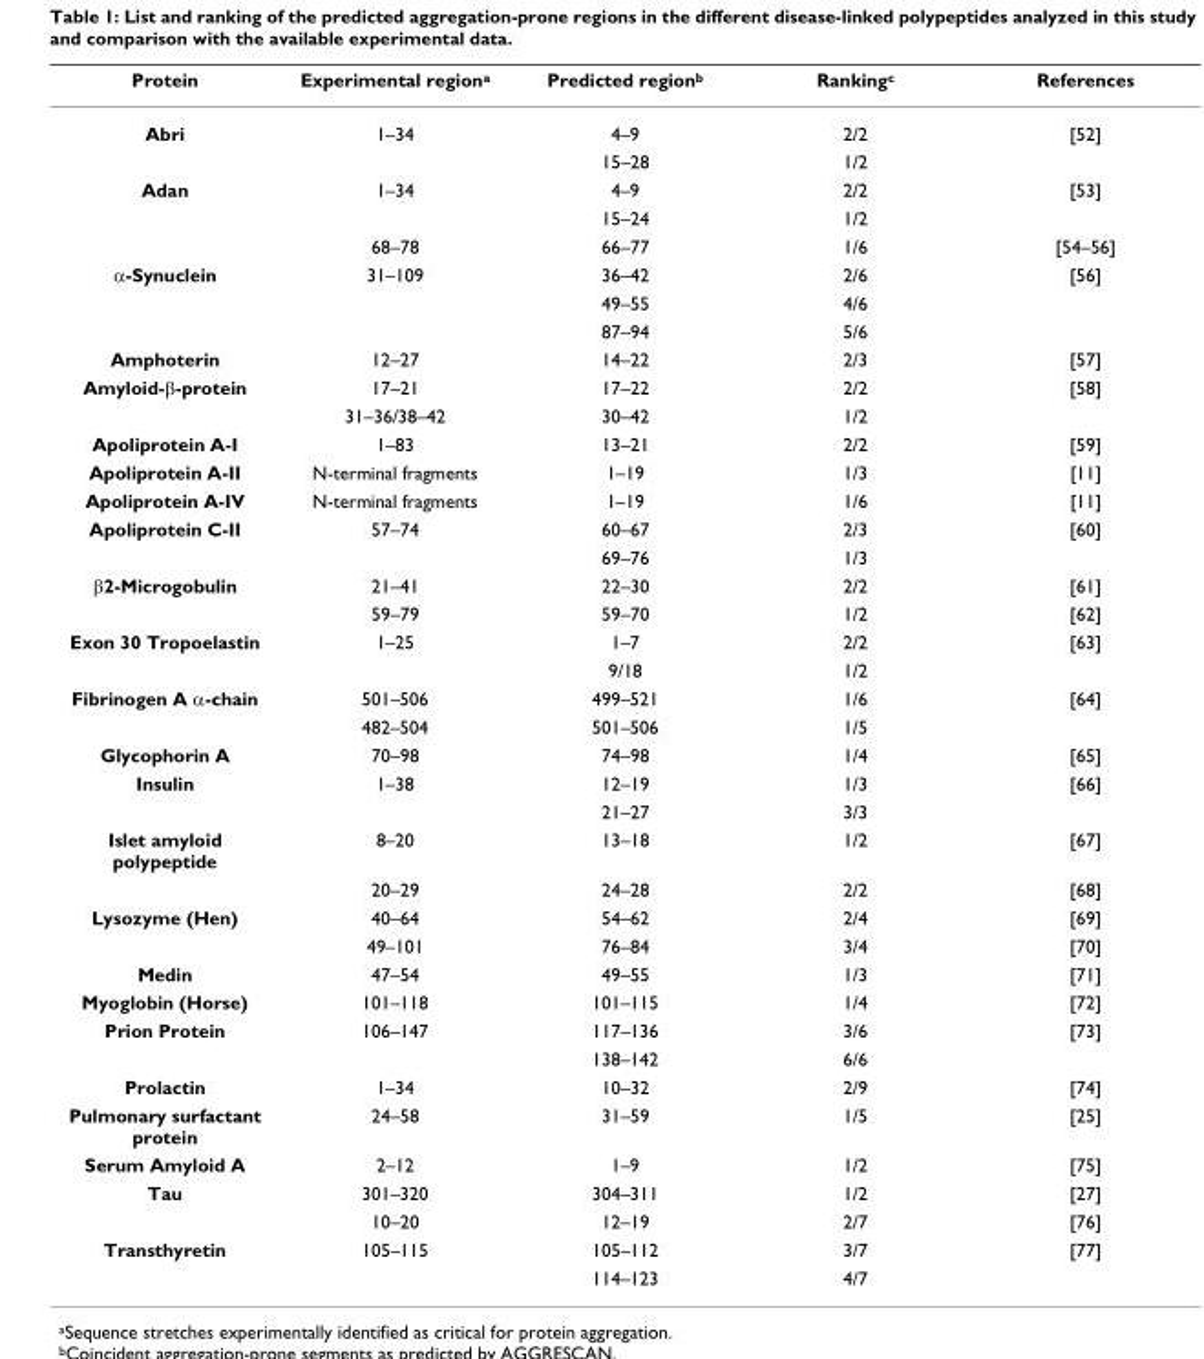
<table><thead><tr><td>Protein</td><td>Experimental region<sup>a</sup></td><td>Predicted region<sup>b</sup></td><td>Ranking<sup>c</sup></td><td>References</td></tr></thead><tbody><tr><td rowspan="2">Abri</td><td>1–34</td><td>4–9</td><td>2/2</td><td>[52]</td></tr><tr><td></td><td>15–28</td><td>1/2</td><td></td></tr><tr><td rowspan="3">Adan</td><td>1–34</td><td>4–9</td><td>2/2</td><td>[53]</td></tr><tr><td></td><td>15–24</td><td>1/2</td><td></td></tr><tr><td>68–78</td><td>66–77</td><td>1/6</td><td>[54–56]</td></tr><tr><td rowspan="3">α-Synuclein</td><td>31–109</td><td>36–42</td><td>2/6</td><td>[56]</td></tr><tr><td></td><td>49–55</td><td>4/6</td><td></td></tr><tr><td></td><td>87–94</td><td>5/6</td><td></td></tr><tr><td>Amphoterin</td><td>12–27</td><td>14–22</td><td>2/3</td><td>[57]</td></tr><tr><td rowspan="2">Amyloid-β-protein</td><td>17–21</td><td>17–22</td><td>2/2</td><td>[58]</td></tr><tr><td>31–36/38–42</td><td>30–42</td><td>1/2</td><td></td></tr><tr><td>Apoliprotein A-I</td><td>1–83</td><td>13–21</td><td>2/2</td><td>[59]</td></tr><tr><td>Apoliprotein A-II</td><td>N-terminal fragments</td><td>1–19</td><td>1/3</td><td>[11]</td></tr><tr><td>Apoliprotein A-IV</td><td>N-terminal fragments</td><td>1–19</td><td>1/6</td><td>[11]</td></tr><tr><td rowspan="2">Apoliprotein C-II</td><td>57–74</td><td>60–67</td><td>2/3</td><td>[60]</td></tr><tr><td></td><td>69–76</td><td>1/3</td><td></td></tr><tr><td rowspan="2">β2-Microgobulin</td><td>21–41</td><td>22–30</td><td>2/2</td><td>[61]</td></tr><tr><td>59–79</td><td>59–70</td><td>1/2</td><td>[62]</td></tr><tr><td rowspan="2">Exon 30 Tropoelastin</td><td>1–25</td><td>1–7</td><td>2/2</td><td>[63]</td></tr><tr><td></td><td>9/18</td><td>1/2</td><td></td></tr><tr><td rowspan="2">Fibrinogen A α-chain</td><td>501–506</td><td>499–521</td><td>1/6</td><td>[64]</td></tr><tr><td>482–504</td><td>501–506</td><td>1/5</td><td></td></tr><tr><td>Glycophorin A</td><td>70–98</td><td>74–98</td><td>1/4</td><td>[65]</td></tr><tr><td rowspan="2">Insulin</td><td>1–38</td><td>12–19</td><td>1/3</td><td>[66]</td></tr><tr><td></td><td>21–27</td><td>3/3</td><td></td></tr><tr><td rowspan="2">Islet amyloid polypeptide</td><td>8–20</td><td>13–18</td><td>1/2</td><td>[67]</td></tr><tr><td>20–29</td><td>24–28</td><td>2/2</td><td>[68]</td></tr><tr><td rowspan="2">Lysozyme (Hen)</td><td>40–64</td><td>54–62</td><td>2/4</td><td>[69]</td></tr><tr><td>49–101</td><td>76–84</td><td>3/4</td><td>[70]</td></tr><tr><td>Medin</td><td>47–54</td><td>49–55</td><td>1/3</td><td>[71]</td></tr><tr><td>Myoglobin (Horse)</td><td>101–118</td><td>101–115</td><td>1/4</td><td>[72]</td></tr><tr><td rowspan="2">Prion Protein</td><td>106–147</td><td>117–136</td><td>3/6</td><td>[73]</td></tr><tr><td></td><td>138–142</td><td>6/6</td><td></td></tr><tr><td>Prolactin</td><td>1–34</td><td>10–32</td><td>2/9</td><td>[74]</td></tr><tr><td>Pulmonary surfactant protein</td><td>24–58</td><td>31–59</td><td>1/5</td><td>[25]</td></tr><tr><td>Serum Amyloid A</td><td>2–12</td><td>1–9</td><td>1/2</td><td>[75]</td></tr><tr><td rowspan="2">Tau</td><td>301–320</td><td>304–311</td><td>1/2</td><td>[27]</td></tr><tr><td>10–20</td><td>12–19</td><td>2/7</td><td>[76]</td></tr><tr><td rowspan="2">Transthyretin</td><td>105–115</td><td>105–112</td><td>3/7</td><td>[77]</td></tr><tr><td></td><td>114–123</td><td>4/7</td><td></td></tr></tbody></table>